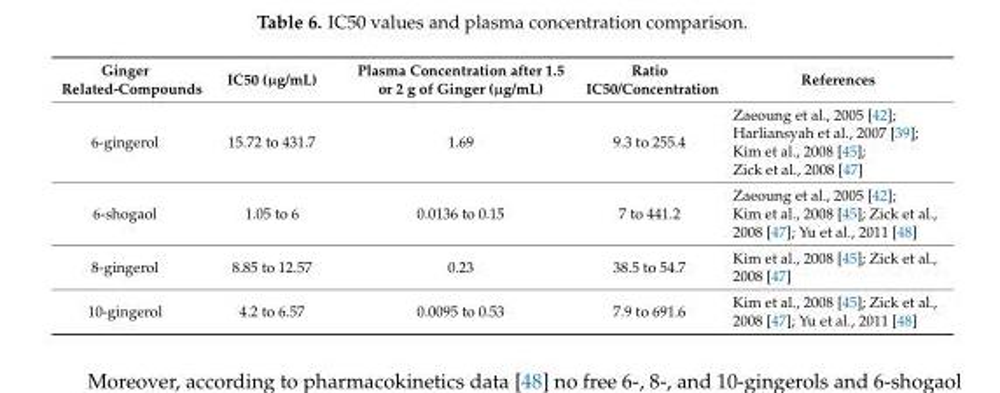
<table><thead><tr><td>Ginger Related-Compounds</td><td>IC50 (µg/mL)</td><td>Plasma Concentration after 1.5 or 2 g of Ginger (µg/mL)</td><td>Ratio IC50/Concentration</td><td>References</td></tr></thead><tbody><tr><td>6-gingerol</td><td>15.72 to 431.7</td><td>1.69</td><td>9.3 to 255.4</td><td>Zaeoung et al., 2005 [42]; Harliansyah et al., 2007 [39]; Kim et al., 2008 [45]; Zick et al., 2008 [47]</td></tr><tr><td>6-shogaol</td><td>1.05 to 6</td><td>0.0136 to 0.15</td><td>7 to 441.2</td><td>Zaeoung et al., 2005 [42]; Kim et al., 2008 [45]; Zick et al., 2008 [47]; Yu et al., 2011 [48]</td></tr><tr><td>8-gingerol</td><td>8.85 to 12.57</td><td>0.23</td><td>38.5 to 54.7</td><td>Kim et al., 2008 [45]; Zick et al., 2008 [47]</td></tr><tr><td>10-gingerol</td><td>4.2 to 6.57</td><td>0.0095 to 0.53</td><td>7.9 to 691.6</td><td>Kim et al., 2008 [45]; Zick et al., 2008 [47]; Yu et al., 2011 [48]</td></tr></tbody></table>